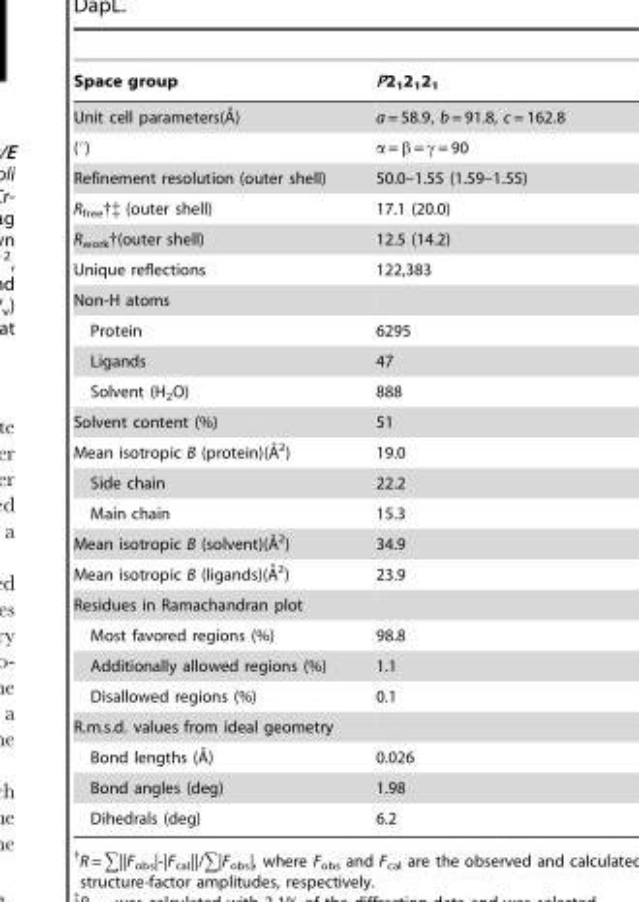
<table><thead><tr><td>Space group</td><td>P2<sub>1</sub>2<sub>1</sub>2<sub>1</sub></td></tr></thead><tbody><tr><td>Unit cell parameters(A˚)</td><td>a = 58.9, b = 91.8, c = 162.8</td></tr><tr><td>(°)</td><td>α = β = γ = 90</td></tr><tr><td>Refinement resolution (outer shell)</td><td>50.0–1.55 (1.59–1.55)</td></tr><tr><td>R<sub>free</sub>†‡ (outer shell)</td><td>17.1 (20.0)</td></tr><tr><td>R<sub>work</sub>†(outer shell)</td><td>12.5 (14.2)</td></tr><tr><td>Unique reflections</td><td>122,383</td></tr><tr><td colspan="2">Non-H atoms</td></tr><tr><td>Protein</td><td>6295</td></tr><tr><td>Ligands</td><td>47</td></tr><tr><td>Solvent (H<sub>2</sub>O)</td><td>888</td></tr><tr><td>Solvent content (%)</td><td>51</td></tr><tr><td>Mean isotropic B (protein)(A˚2)</td><td>19.0</td></tr><tr><td>Side chain</td><td>22.2</td></tr><tr><td>Main chain</td><td>15.3</td></tr><tr><td>Mean isotropic B (solvent)(A˚2)</td><td>34.9</td></tr><tr><td>Mean isotropic B (ligands)(A˚ 2)</td><td>23.9</td></tr><tr><td colspan="2">Residues in Ramachandran plot</td></tr><tr><td>Most favored regions (%)</td><td>98.8</td></tr><tr><td>Additionally allowed regions (%)</td><td>1.1</td></tr><tr><td>Disallowed regions (%)</td><td>0.1</td></tr><tr><td colspan="2">R.m.s.d. values from ideal geometry</td></tr><tr><td>Bond lengths (A˚)</td><td>0.026</td></tr><tr><td>Bond angles (deg)</td><td>1.98</td></tr><tr><td>Dihedrals (deg)</td><td>6.2</td></tr></tbody></table>